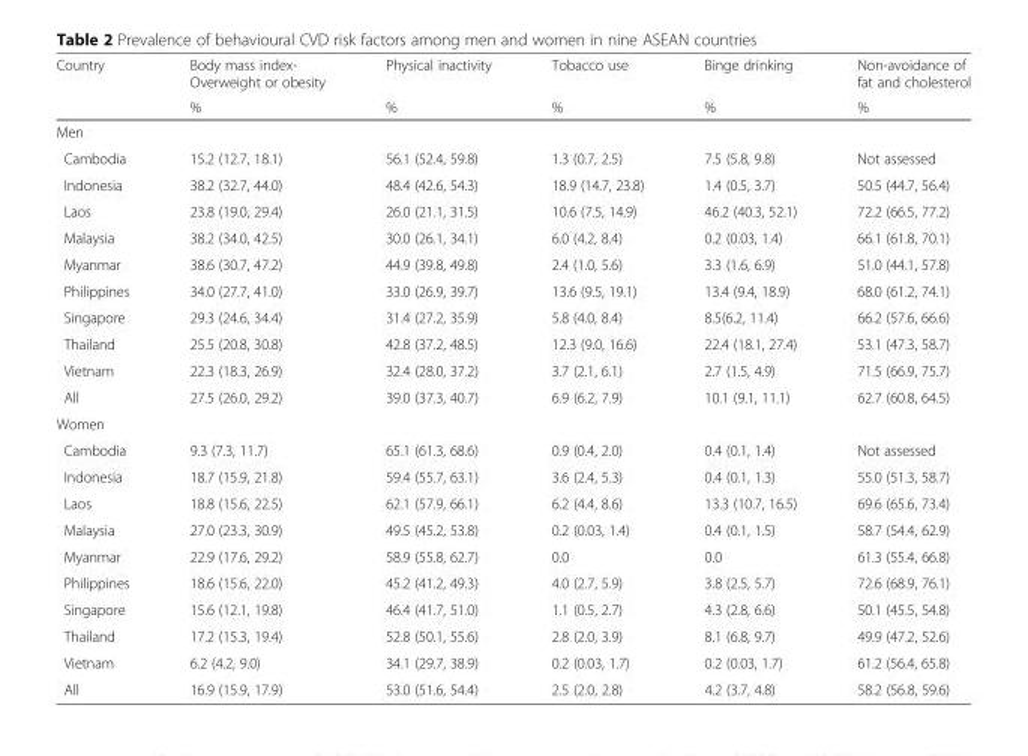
<table><thead><tr><td rowspan="2">Country</td><td rowspan="2">Body mass index- Overweight or obesity %</td><td rowspan="2">Physical inactivity %</td><td rowspan="2">Tobacco use %</td><td rowspan="2">Binge drinking %</td><td rowspan="2">Non-avoidance of fat and cholesterol %</td></tr><tr></tr></thead><tbody><tr><td colspan="6">Men</td></tr><tr><td>Cambodia</td><td>15.2 (12.7, 18.1)</td><td>56.1 (52.4, 59.8)</td><td>1.3 (0.7, 2.5)</td><td>7.5 (5.8, 9.8)</td><td>Not assessed</td></tr><tr><td>Indonesia</td><td>38.2 (32.7, 44.0)</td><td>48.4 (42.6, 54.3)</td><td>18.9 (14.7, 23.8)</td><td>1.4 (0.5, 3.7)</td><td>50.5 (44.7, 56.4)</td></tr><tr><td>Laos</td><td>23.8 (19.0, 29.4)</td><td>26.0 (21.1, 31.5)</td><td>10.6 (7.5, 14.9)</td><td>46.2 (40.3, 52.1)</td><td>72.2 (66.5, 77.2)</td></tr><tr><td>Malaysia</td><td>38.2 (34.0, 42.5)</td><td>30.0 (26.1, 34.1)</td><td>6.0 (4.2, 8.4)</td><td>0.2 (0.03, 1.4)</td><td>66.1 (61.8, 70.1)</td></tr><tr><td>Myanmar</td><td>38.6 (30.7, 47.2)</td><td>44.9 (39.8, 49.8)</td><td>2.4 (1.0, 5.6)</td><td>3.3 (1.6, 6.9)</td><td>51.0 (44.1, 57.8)</td></tr><tr><td>Philippines</td><td>34.0 (27.7, 41.0)</td><td>33.0 (26.9, 39.7)</td><td>13.6 (9.5, 19.1)</td><td>13.4 (9.4, 18.9)</td><td>68.0 (61.2, 74.1)</td></tr><tr><td>Singapore</td><td>29.3 (24.6, 34.4)</td><td>31.4 (27.2, 35.9)</td><td>5.8 (4.0, 8.4)</td><td>8.5(6.2, 11.4)</td><td>66.2 (57.6, 66.6)</td></tr><tr><td>Thailand</td><td>25.5 (20.8, 30.8)</td><td>42.8 (37.2, 48.5)</td><td>12.3 (9.0, 16.6)</td><td>22.4 (18.1, 27.4)</td><td>53.1 (47.3, 58.7)</td></tr><tr><td>Vietnam</td><td>22.3 (18.3, 26.9)</td><td>32.4 (28.0, 37.2)</td><td>3.7 (2.1, 6.1)</td><td>2.7 (1.5, 4.9)</td><td>71.5 (66.9, 75.7)</td></tr><tr><td>All</td><td>27.5 (26.0, 29.2)</td><td>39.0 (37.3, 40.7)</td><td>6.9 (6.2, 7.9)</td><td>10.1 (9.1, 11.1)</td><td>62.7 (60.8, 64.5)</td></tr><tr><td colspan="6">Women</td></tr><tr><td>Cambodia</td><td>9.3 (7.3, 11.7)</td><td>65.1 (61.3, 68.6)</td><td>0.9 (0.4, 2.0)</td><td>0.4 (0.1, 1.4)</td><td>Not assessed</td></tr><tr><td>Indonesia</td><td>18.7 (15.9, 21.8)</td><td>59.4 (55.7, 63.1)</td><td>3.6 (2.4, 5.3)</td><td>0.4 (0.1, 1.3)</td><td>55.0 (51.3, 58.7)</td></tr><tr><td>Laos</td><td>18.8 (15.6, 22.5)</td><td>62.1 (57.9, 66.1)</td><td>6.2 (4.4, 8.6)</td><td>13.3 (10.7, 16.5)</td><td>69.6 (65.6, 73.4)</td></tr><tr><td>Malaysia</td><td>27.0 (23.3, 30.9)</td><td>49.5 (45.2, 53.8)</td><td>0.2 (0.03, 1.4)</td><td>0.4 (0.1, 1.5)</td><td>58.7 (54.4, 62.9)</td></tr><tr><td>Myanmar</td><td>22.9 (17.6, 29.2)</td><td>58.9 (55.8, 62.7)</td><td>0.0</td><td>0.0</td><td>61.3 (55.4, 66.8)</td></tr><tr><td>Philippines</td><td>18.6 (15.6, 22.0)</td><td>45.2 (41.2, 49.3)</td><td>4.0 (2.7, 5.9)</td><td>3.8 (2.5, 5.7)</td><td>72.6 (68.9, 76.1)</td></tr><tr><td>Singapore</td><td>15.6 (12.1, 19.8)</td><td>46.4 (41.7, 51.0)</td><td>1.1 (0.5, 2.7)</td><td>4.3 (2.8, 6.6)</td><td>50.1 (45.5, 54.8)</td></tr><tr><td>Thailand</td><td>17.2 (15.3, 19.4)</td><td>52.8 (50.1, 55.6)</td><td>2.8 (2.0, 3.9)</td><td>8.1 (6.8, 9.7)</td><td>49.9 (47.2, 52.6)</td></tr><tr><td>Vietnam</td><td>6.2 (4.2, 9.0)</td><td>34.1 (29.7, 38.9)</td><td>0.2 (0.03, 1.7)</td><td>0.2 (0.03, 1.7)</td><td>61.2 (56.4, 65.8)</td></tr><tr><td>All</td><td>16.9 (15.9, 17.9)</td><td>53.0 (51.6, 54.4)</td><td>2.5 (2.0, 2.8)</td><td>4.2 (3.7, 4.8)</td><td>58.2 (56.8, 59.6)</td></tr></tbody></table>